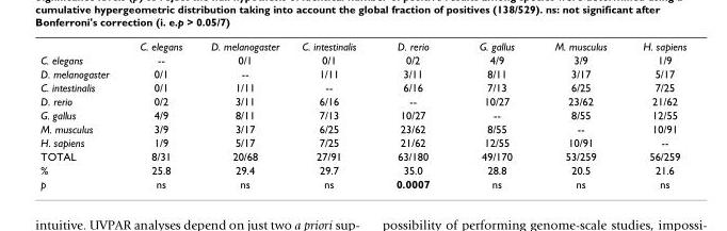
<table><thead><tr><td></td><td>C. elegans</td><td>D. melanogaster</td><td>C. intestinalis</td><td>D. rerio</td><td>G. gallus</td><td>M. musculus</td><td>H. sapiens</td></tr></thead><tbody><tr><td>C. elegans</td><td>--</td><td>0/1</td><td>0/1</td><td>0/2</td><td>4/9</td><td>3/9</td><td>1/9</td></tr><tr><td>D. melanogaster</td><td>0/1</td><td>--</td><td>1/11</td><td>3/11</td><td>8/11</td><td>3/17</td><td>5/17</td></tr><tr><td>C. intestinalis</td><td>0/1</td><td>1/11</td><td>--</td><td>6/16</td><td>7/13</td><td>6/25</td><td>7/25</td></tr><tr><td>D. rerio</td><td>0/2</td><td>3/11</td><td>6/16</td><td>--</td><td>10/27</td><td>23/62</td><td>21/62</td></tr><tr><td>G. gallus</td><td>4/9</td><td>8/11</td><td>7/13</td><td>10/27</td><td>--</td><td>8/55</td><td>12/55</td></tr><tr><td>M. musculus</td><td>3/9</td><td>3/17</td><td>6/25</td><td>23/62</td><td>8/55</td><td>--</td><td>10/91</td></tr><tr><td>H. sapiens</td><td>1/9</td><td>5/17</td><td>7/25</td><td>21/62</td><td>12/55</td><td>10/91</td><td>--</td></tr><tr><td>TOTAL</td><td>8/31</td><td>20/68</td><td>27/91</td><td>63/180</td><td>49/170</td><td>53/259</td><td>56/259</td></tr><tr><td>%</td><td>25.8</td><td>29.4</td><td>29.7</td><td>35.0</td><td>28.8</td><td>20.5</td><td>21.6</td></tr><tr><td>p</td><td>ns</td><td>ns</td><td>ns</td><td>0.0007</td><td>ns</td><td>ns</td><td>ns</td></tr></tbody></table>